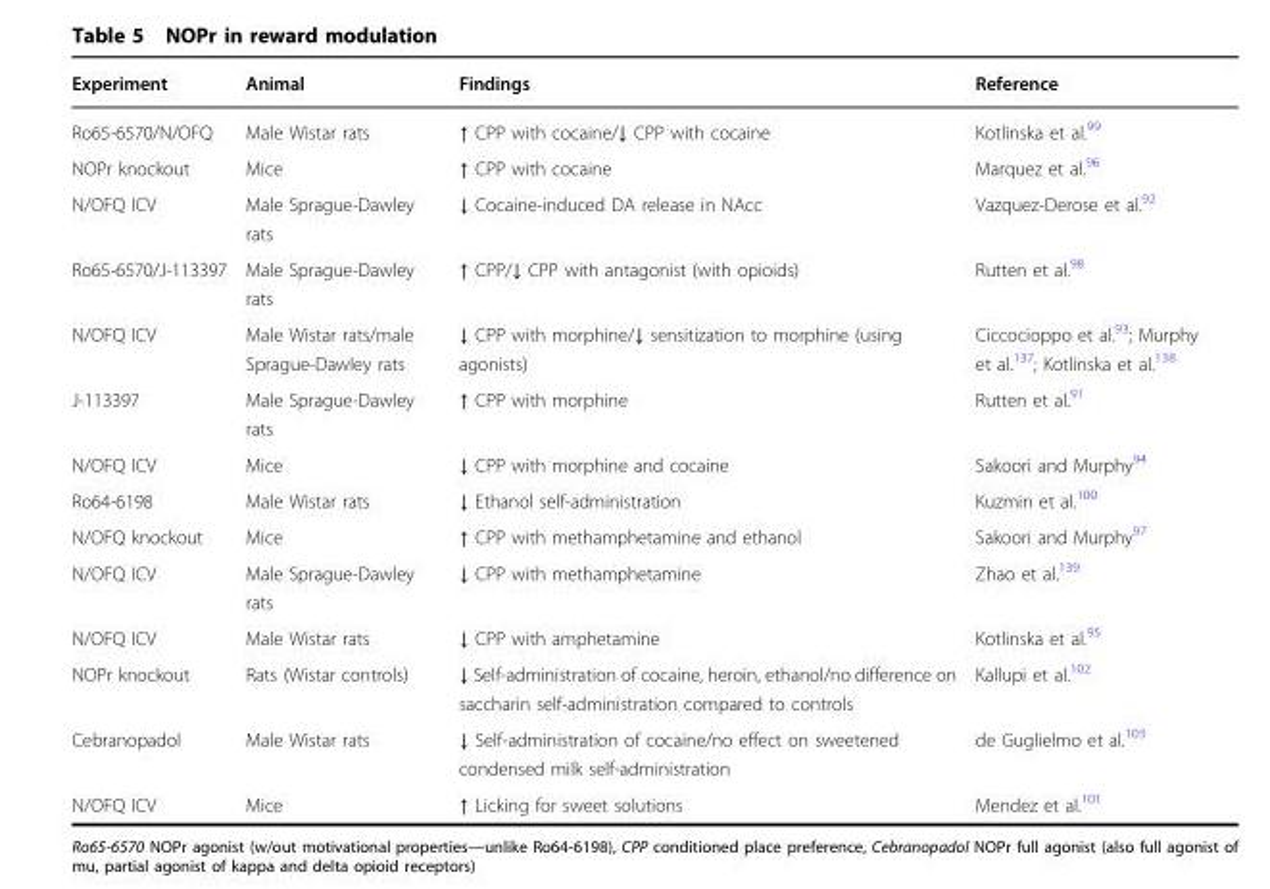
<table><thead><tr><td>Experiment</td><td>Animal</td><td>Findings</td><td>Reference</td></tr></thead><tbody><tr><td>Ro65-6570/N/OFQ</td><td>Male Wistar rats</td><td>↑ CPP with cocaine/↓ CPP with cocaine</td><td>Kotlinska et al.<sup>99</sup></td></tr><tr><td>NOPr knockout</td><td>Mice</td><td>↑ CPP with cocaine</td><td>Marquez et al.<sup>96</sup></td></tr><tr><td>N/OFQ ICV</td><td>Male Sprague-Dawley rats</td><td>↓ Cocaine-induced DA release in NAcc</td><td>Vazquez-Derose et al.<sup>92</sup></td></tr><tr><td>Ro65-6570/J-113397</td><td>Male Sprague-Dawley rats</td><td>↑ CPP/↓ CPP with antagonist (with opioids)</td><td>Rutten et al.<sup>98</sup></td></tr><tr><td>N/OFQ ICV</td><td>Male Wistar rats/male Sprague-Dawley rats</td><td>↓ CPP with morphine/↓ sensitization to morphine (using agonists)</td><td>Ciccocioppo et al.<sup>93</sup>; Murphy et al.<sup>137</sup>; Kotlinska et al.<sup>138</sup></td></tr><tr><td>J-113397</td><td>Male Sprague-Dawley rats</td><td>↑ CPP with morphine</td><td>Rutten et al.<sup>91</sup></td></tr><tr><td>N/OFQ ICV</td><td>Mice</td><td>↓ CPP with morphine and cocaine</td><td>Sakoori and Murphy<sup>94</sup></td></tr><tr><td>Ro64-6198</td><td>Male Wistar rats</td><td>↓ Ethanol self-administration</td><td>Kuzmin et al.<sup>100</sup></td></tr><tr><td>N/OFQ knockout</td><td>Mice</td><td>↑ CPP with methamphetamine and ethanol</td><td>Sakoori and Murphy<sup>97</sup></td></tr><tr><td>N/OFQ ICV</td><td>Male Sprague-Dawley rats</td><td>↓ CPP with methamphetamine</td><td>Zhao et al.<sup>139</sup></td></tr><tr><td>N/OFQ ICV</td><td>Male Wistar rats</td><td>↓ CPP with amphetamine</td><td>Kotlinska et al.<sup>95</sup></td></tr><tr><td>NOPr knockout</td><td>Rats (Wistar controls)</td><td>↓ Self-administration of cocaine, heroin, ethanol/no difference on saccharin self-administration compared to controls</td><td>Kallupi et al.<sup>102</sup></td></tr><tr><td>Cebranopadol</td><td>Male Wistar rats</td><td>↓ Self-administration of cocaine/no effect on sweetened condensed milk self-administration</td><td>de Guglielmo et al.<sup>103</sup></td></tr><tr><td>N/OFQ ICV</td><td>Mice</td><td>↑ Licking for sweet solutions</td><td>Mendez et al.<sup>101</sup></td></tr></tbody></table>